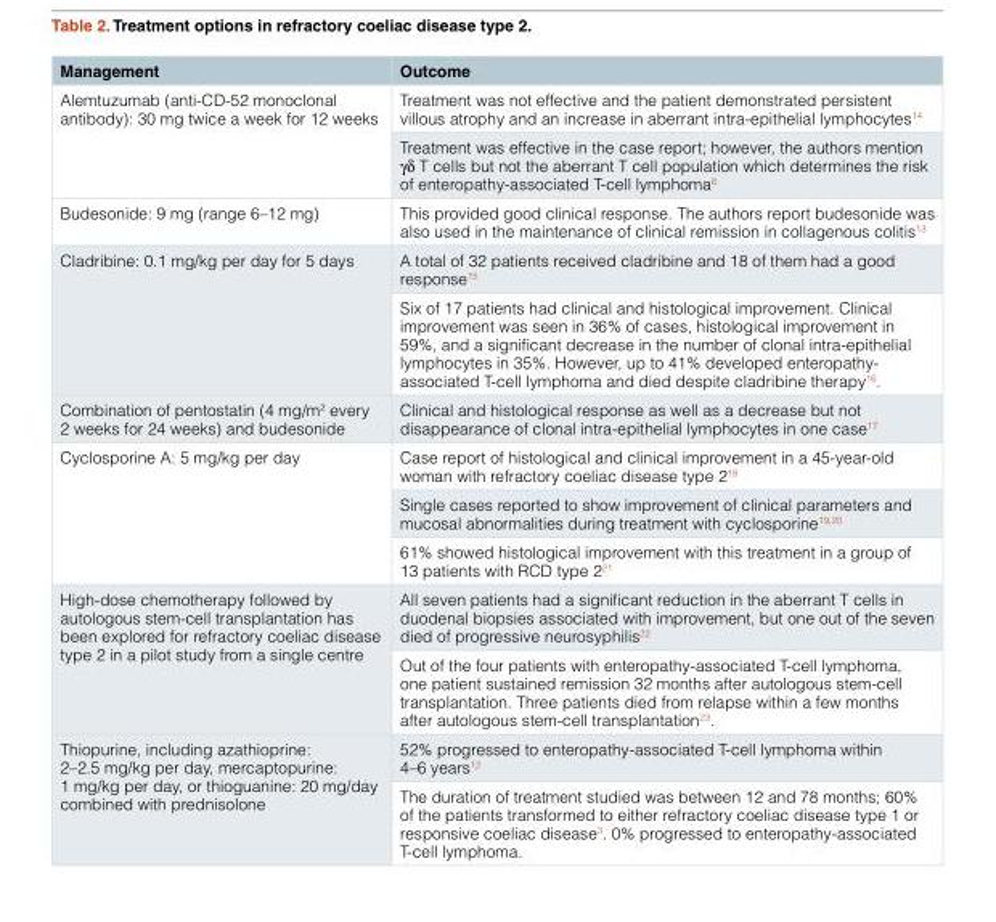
<table><thead><tr><td>Management</td><td>Outcome</td></tr></thead><tbody><tr><td rowspan="2">Alemtuzumab (anti-CD-52 monoclonal antibody): 30 mg twice a week for 12 weeks</td><td>Treatment was not effective and the patient demonstrated persistent villous atrophy and an increase in aberrant intra-epithelial lymphocytes<sup>14</sup></td></tr><tr><td>Treatment was effective in the case report; however, the authors mention γδ T cells but not the aberrant T cell population which determines the risk of enteropathy-associated T-cell lymphoma<sup>6</sup></td></tr><tr><td>Budesonide: 9 mg (range 6–12 mg)</td><td>This provided good clinical response. The authors report budesonide was also used in the maintenance of clinical remission in collagenous colitis<sup>13</sup></td></tr><tr><td rowspan="2">Cladribine: 0.1 mg/kg per day for 5 days</td><td>A total of 32 patients received cladribine and 18 of them had a good response<sup>15</sup></td></tr><tr><td>Six of 17 patients had clinical and histological improvement. Clinical improvement was seen in 36% of cases, histological improvement in 59%, and a significant decrease in the number of clonal intra-epithelial lymphocytes in 35%. However, up to 41% developed enteropathy- associated T-cell lymphoma and died despite cladribine therapy<sup>16</sup>.</td></tr><tr><td>Combination of pentostatin (4 mg/m<sup>2</sup> every 2 weeks for 24 weeks) and budesonide</td><td>Clinical and histological response as well as a decrease but not disappearance of clonal intra-epithelial lymphocytes in one case<sup>17</sup></td></tr><tr><td rowspan="3">Cyclosporine A: 5 mg/kg per day</td><td>Case report of histological and clinical improvement in a 45-year-old woman with refractory coeliac disease type 2<sup>18</sup></td></tr><tr><td>Single cases reported to show improvement of clinical parameters and mucosal abnormalities during treatment with cyclosporine<sup>19,20</sup></td></tr><tr><td>61% showed histological improvement with this treatment in a group of 13 patients with RCD type 2<sup>21</sup></td></tr><tr><td rowspan="2">High-dose chemotherapy followed by autologous stem-cell transplantation has been explored for refractory coeliac disease type 2 in a pilot study from a single centre</td><td>All seven patients had a significant reduction in the aberrant T cells in duodenal biopsies associated with improvement, but one out of the seven died of progressive neurosyphilis<sup>22</sup></td></tr><tr><td>Out of the four patients with enteropathy-associated T-cell lymphoma, one patient sustained remission 32 months after autologous stem-cell transplantation. Three patients died from relapse within a few months after autologous stem-cell transplantation<sup>23</sup>.</td></tr><tr><td rowspan="2">Thiopurine, including azathioprine: 2–2.5 mg/kg per day, mercaptopurine: 1 mg/kg per day, or thioguanine: 20 mg/day combined with prednisolone</td><td>52% progressed to enteropathy-associated T-cell lymphoma within 4–6 years<sup>12</sup></td></tr><tr><td>The duration of treatment studied was between 12 and 78 months; 60% of the patients transformed to either refractory coeliac disease type 1 or responsive coeliac disease<sup>3</sup>. 0% progressed to enteropathy-associated T-cell lymphoma.</td></tr></tbody></table>